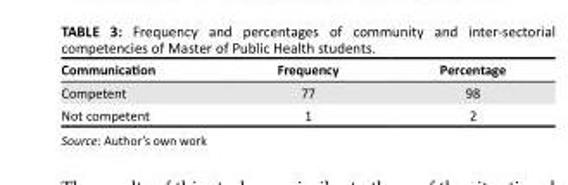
<table><thead><tr><td>Communication</td><td>Frequency</td><td>Percentage</td></tr></thead><tbody><tr><td>Competent</td><td>77</td><td>98</td></tr><tr><td>Not competent</td><td>1</td><td>2</td></tr></tbody></table>